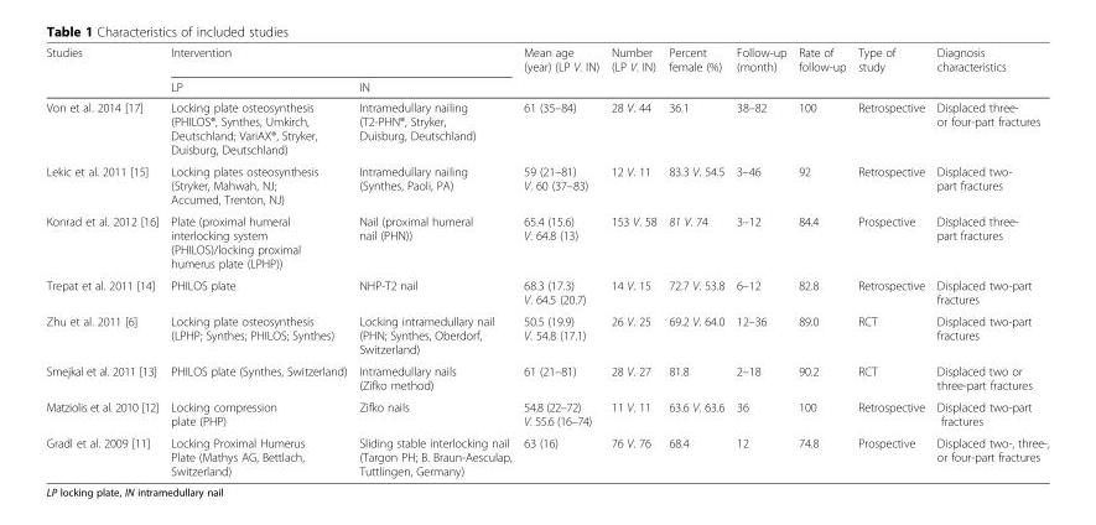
<table><thead><tr><td rowspan="2">Studies</td><td colspan="2">Intervention</td><td rowspan="2">Mean age (year) (LP V. IN)</td><td rowspan="2">Number (LP V. IN)</td><td rowspan="2">Percent female (%)</td><td rowspan="2">Follow-up (month)</td><td rowspan="2">Rate of follow-up</td><td rowspan="2">Type of study</td><td rowspan="2">Diagnosis characteristics</td></tr><tr><td>LP</td><td>IN</td></tr></thead><tbody><tr><td>Von et al. 2014 [17]</td><td>Locking plate osteosynthesis (PHILOS®, Synthes, Umkirch, Deutschland; VariAX®, Stryker, Duisburg, Deutschland)</td><td>Intramedullary nailing (T2-PHN®, Stryker, Duisburg, Deutschland)</td><td>61 (35–84)</td><td>28 V. 44</td><td>36.1</td><td>38–82</td><td>100</td><td>Retrospective</td><td>Displaced three- or four-part fractures</td></tr><tr><td>Lekic et al. 2011 [15]</td><td>Locking plates osteosynthesis (Stryker, Mahwah, NJ; Accumed, Trenton, NJ)</td><td>Intramedullary nailing (Synthes, Paoli, PA)</td><td>59 (21–81) V. 60 (37–83)</td><td>12 V. 11</td><td>83.3 V. 54.5</td><td>3–46</td><td>92</td><td>Retrospective</td><td>Displaced two- part fractures</td></tr><tr><td>Konrad et al. 2012 [16]</td><td>Plate (proximal humeral interlocking system (PHILOS)/locking proximal humerus plate (LPHP))</td><td>Nail (proximal humeral nail (PHN))</td><td>65.4 (15.6) V. 64.8 (13)</td><td>153 V. 58</td><td>81 V. 74</td><td>3–12</td><td>84.4</td><td>Prospective</td><td>Displaced three- part fractures</td></tr><tr><td>Trepat et al. 2011 [14]</td><td>PHILOS plate</td><td>NHP-T2 nail</td><td>68.3 (17.3) V. 64.5 (20.7)</td><td>14 V. 15</td><td>72.7 V. 53.8</td><td>6–12</td><td>82.8</td><td>Retrospective</td><td>Displaced two-part fractures</td></tr><tr><td>Zhu et al. 2011 [6]</td><td>Locking plate osteosynthesis (LPHP; Synthes; PHILOS; Synthes)</td><td>Locking intramedullary nail (PHN; Synthes, Oberdorf, Switzerland)</td><td>50.5 (19.9) V. 54.8 (17.1)</td><td>26 V. 25</td><td>69.2 V. 64.0</td><td>12–36</td><td>89.0</td><td>RCT</td><td>Displaced two-part fractures</td></tr><tr><td>Smejkal et al. 2011 [13]</td><td>PHILOS plate (Synthes, Switzerland)</td><td>Intramedullary nails (Zifko method)</td><td>61 (21–81)</td><td>28 V. 27</td><td>81.8</td><td>2–18</td><td>90.2</td><td>RCT</td><td>Displaced two or three-part fractures</td></tr><tr><td>Matziolis et al. 2010 [12]</td><td>Locking compression plate (PHP)</td><td>Zifko nails</td><td>54.8 (22–72) V. 55.6 (16–74)</td><td>11 V. 11</td><td>63.6 V. 63.6</td><td>36</td><td>100</td><td>Retrospective</td><td>Displaced two-part fractures</td></tr><tr><td>Gradl et al. 2009 [11]</td><td>Locking Proximal Humerus Plate (Mathys AG, Bettlach, Switzerland)</td><td>Sliding stable interlocking nail (Targon PH; B. Braun-Aesculap, Tuttlingen, Germany)</td><td>63 (16)</td><td>76 V. 76</td><td>68.4</td><td>12</td><td>74.8</td><td>Prospective</td><td>Displaced two-, three-, or four-part fractures</td></tr></tbody></table>